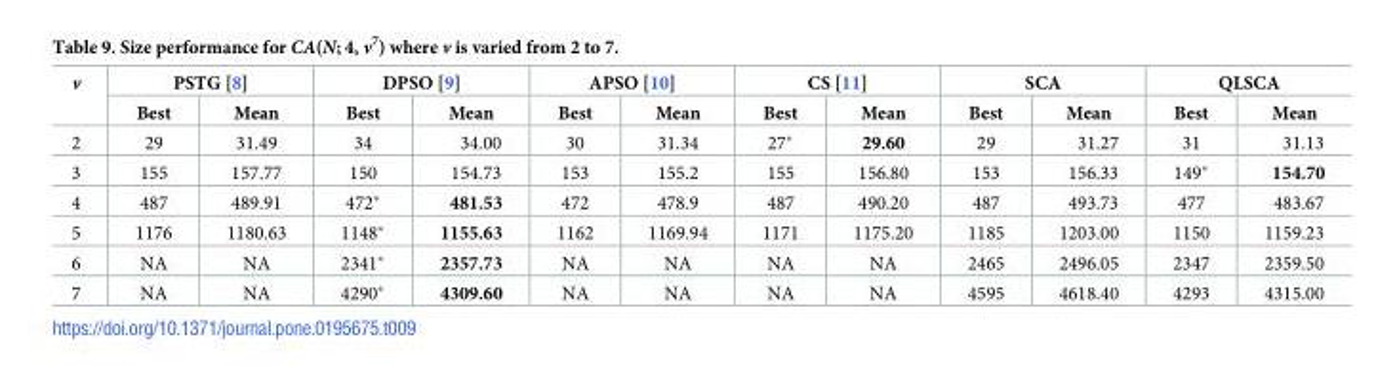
<table><thead><tr><td rowspan="2">v</td><td colspan="2">PSTG [8]</td><td colspan="2">DPSO [9]</td><td colspan="2">APSO [10]</td><td colspan="2">CS [11]</td><td colspan="2">SCA</td><td colspan="2">QLSCA</td></tr><tr><td>Best</td><td>Mean</td><td>Best</td><td>Mean</td><td>Best</td><td>Mean</td><td>Best</td><td>Mean</td><td>Best</td><td>Mean</td><td>Best</td><td>Mean</td></tr></thead><tbody><tr><td>2</td><td>29</td><td>31.49</td><td>34</td><td>34.00</td><td>30</td><td>31.34</td><td>27*</td><td>29.60</td><td>29</td><td>31.27</td><td>31</td><td>31.13</td></tr><tr><td>3</td><td>155</td><td>157.77</td><td>150</td><td>154.73</td><td>153</td><td>155.2</td><td>155</td><td>156.80</td><td>153</td><td>156.33</td><td>149*</td><td>154.70</td></tr><tr><td>4</td><td>487</td><td>489.91</td><td>472*</td><td>481.53</td><td>472</td><td>478.9</td><td>487</td><td>490.20</td><td>487</td><td>493.73</td><td>477</td><td>483.67</td></tr><tr><td>5</td><td>1176</td><td>1180.63</td><td>1148*</td><td>1155.63</td><td>1162</td><td>1169.94</td><td>1171</td><td>1175.20</td><td>1185</td><td>1203.00</td><td>1150</td><td>1159.23</td></tr><tr><td>6</td><td>NA</td><td>NA</td><td>2341*</td><td>2357.73</td><td>NA</td><td>NA</td><td>NA</td><td>NA</td><td>2465</td><td>2496.05</td><td>2347</td><td>2359.50</td></tr><tr><td>7</td><td>NA</td><td>NA</td><td>4290*</td><td>4309.60</td><td>NA</td><td>NA</td><td>NA</td><td>NA</td><td>4595</td><td>4618.40</td><td>4293</td><td>4315.00</td></tr></tbody></table>